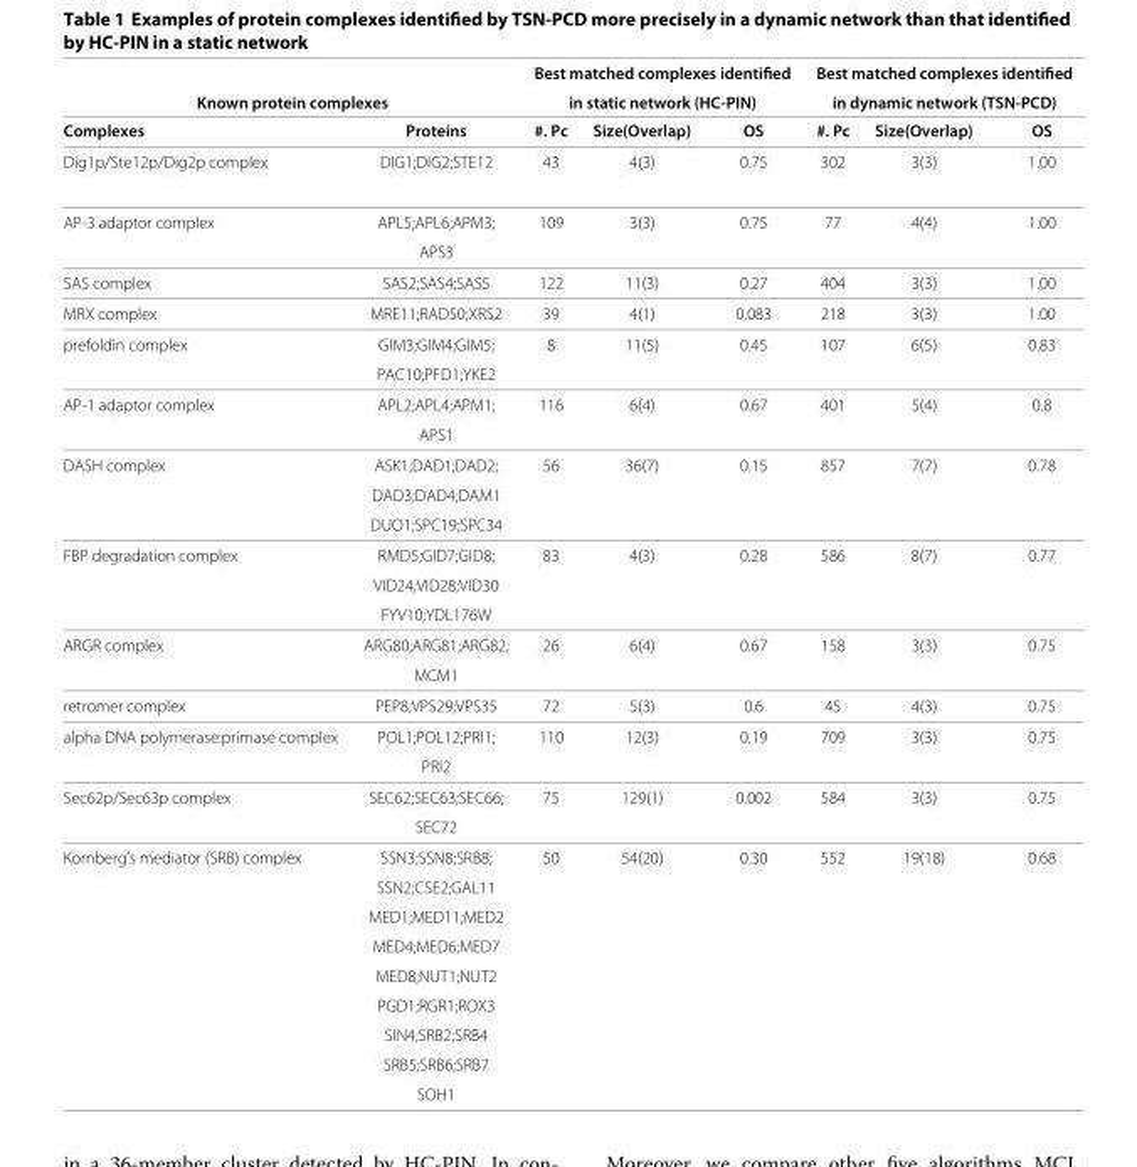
<table><thead><tr><td></td><td></td><td rowspan="2" colspan="3">Best matched complexes identified in static network (HC-PIN)</td><td rowspan="2" colspan="3">Best matched complexes identified in dynamic network (TSN-PCD)</td></tr><tr><td colspan="2">Known protein complexes</td></tr><tr><td>Complexes</td><td>Proteins</td><td>#. Pc</td><td>Size(Overlap)</td><td>OS</td><td>#. Pc</td><td>Size(Overlap)</td><td>OS</td></tr></thead><tbody><tr><td>Dig1p/Ste12p/Dig2p complex</td><td>DIG1;DIG2;STE12</td><td>43</td><td>4(3)</td><td>0.75</td><td>302</td><td>3(3)</td><td>1.00</td></tr><tr><td rowspan="2">AP-3 adaptor complex</td><td>APL5;APL6;APM3;</td><td>109</td><td>3(3)</td><td>0.75</td><td>77</td><td>4(4)</td><td>1.00</td></tr><tr><td>APS3</td><td></td><td></td><td></td><td></td><td></td><td></td></tr><tr><td>SAS complex</td><td>SAS2;SAS4;SAS5</td><td>122</td><td>11(3)</td><td>0.27</td><td>404</td><td>3(3)</td><td>1.00</td></tr><tr><td>MRX complex</td><td>MRE11;RAD50;XRS2</td><td>39</td><td>4(1)</td><td>0.083</td><td>218</td><td>3(3)</td><td>1.00</td></tr><tr><td rowspan="2">prefoldin complex</td><td>GIM3;GIM4;GIM5;</td><td>8</td><td>11(5)</td><td>0.45</td><td>107</td><td>6(5)</td><td>0.83</td></tr><tr><td>PAC10;PFD1;YKE2</td><td></td><td></td><td></td><td></td><td></td><td></td></tr><tr><td rowspan="2">AP-1 adaptor complex</td><td>APL2;APL4;APM1;</td><td>116</td><td>6(4)</td><td>0.67</td><td>401</td><td>5(4)</td><td>0.8</td></tr><tr><td>APS1</td><td></td><td></td><td></td><td></td><td></td><td></td></tr><tr><td rowspan="3">DASH complex</td><td>ASK1;DAD1;DAD2;</td><td>56</td><td>36(7)</td><td>0.15</td><td>857</td><td>7(7)</td><td>0.78</td></tr><tr><td>DAD3;DAD4;DAM1</td><td></td><td></td><td></td><td></td><td></td><td></td></tr><tr><td>DUO1;SPC19;SPC34</td><td></td><td></td><td></td><td></td><td></td><td></td></tr><tr><td rowspan="3">FBP degradation complex</td><td>RMD5;GID7;GID8;</td><td>83</td><td>4(3)</td><td>0.28</td><td>586</td><td>8(7)</td><td>0.77</td></tr><tr><td>VID24;VID28;VID30</td><td></td><td></td><td></td><td></td><td></td><td></td></tr><tr><td>FYV10;YDL176W</td><td></td><td></td><td></td><td></td><td></td><td></td></tr><tr><td rowspan="2">ARGR complex</td><td>ARG80;ARG81;ARG82;</td><td>26</td><td>6(4)</td><td>0.67</td><td>158</td><td>3(3)</td><td>0.75</td></tr><tr><td>MCM1</td><td></td><td></td><td></td><td></td><td></td><td></td></tr><tr><td>retromer complex</td><td>PEP8;VPS29;VPS35</td><td>72</td><td>5(3)</td><td>0.6</td><td>45</td><td>4(3)</td><td>0.75</td></tr><tr><td rowspan="2">alpha DNA polymerase:primase complex</td><td>POL1;POL12;PRI1;</td><td>110</td><td>12(3)</td><td>0.19</td><td>709</td><td>3(3)</td><td>0.75</td></tr><tr><td>PRI2</td><td></td><td></td><td></td><td></td><td></td><td></td></tr><tr><td rowspan="2">Sec62p/Sec63p complex</td><td>SEC62;SEC63;SEC66;</td><td>75</td><td>129(1)</td><td>0.002</td><td>584</td><td>3(3)</td><td>0.75</td></tr><tr><td>SEC72</td><td></td><td></td><td></td><td></td><td></td><td></td></tr><tr><td rowspan="9">Kornberg’s mediator (SRB) complex</td><td>SSN3;SSN8;SRB8;</td><td>50</td><td>54(20)</td><td>0.30</td><td>552</td><td>19(18)</td><td>0.68</td></tr><tr><td>SSN2;CSE2;GAL11</td><td></td><td></td><td></td><td></td><td></td><td></td></tr><tr><td>MED1;MED11;MED2</td><td></td><td></td><td></td><td></td><td></td><td></td></tr><tr><td>MED4;MED6;MED7</td><td></td><td></td><td></td><td></td><td></td><td></td></tr><tr><td>MED8;NUT1;NUT2</td><td></td><td></td><td></td><td></td><td></td><td></td></tr><tr><td>PGD1;RGR1;ROX3</td><td></td><td></td><td></td><td></td><td></td><td></td></tr><tr><td>SIN4;SRB2;SRB4</td><td></td><td></td><td></td><td></td><td></td><td></td></tr><tr><td>SRB5;SRB6;SRB7</td><td></td><td></td><td></td><td></td><td></td><td></td></tr><tr><td>SOH1</td><td></td><td></td><td></td><td></td><td></td><td></td></tr></tbody></table>